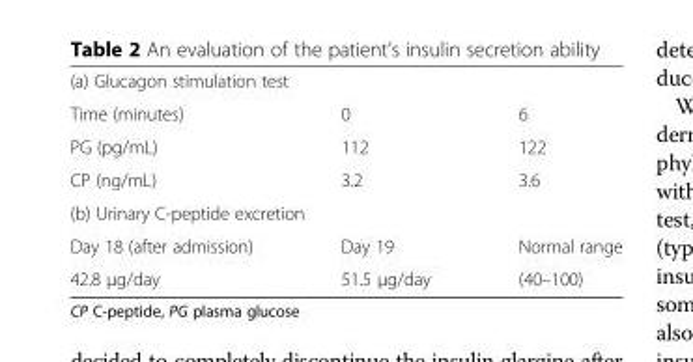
<table><tbody><tr><td colspan="3">(a) Glucagon stimulation test</td></tr><tr><td>Time (minutes)</td><td>0</td><td>6</td></tr><tr><td>PG (pg/mL)</td><td>112</td><td>122</td></tr><tr><td>CP (ng/mL)</td><td>3.2</td><td>3.6</td></tr><tr><td colspan="3">(b) Urinary C-peptide excretion</td></tr><tr><td>Day 18 (after admission)</td><td>Day 19</td><td>Normal range</td></tr><tr><td>42.8 μg/day</td><td>51.5 μg/day</td><td>(40–100)</td></tr></tbody></table>